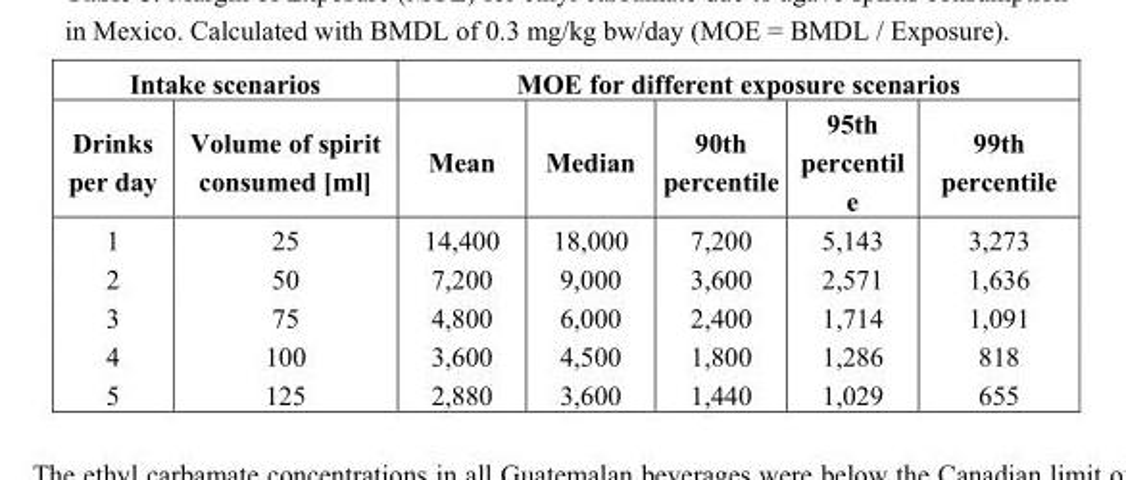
<table><thead><tr><td colspan="2">Intake scenarios</td><td colspan="5">MOE for different exposure scenarios</td></tr><tr><td>Drinks per day</td><td>Volume of spirit consumed [ml]</td><td>Mean</td><td>Median</td><td>90th percentile</td><td>95th percentil e</td><td>99th percentile</td></tr></thead><tbody><tr><td>1</td><td>25</td><td>14,400</td><td>18,000</td><td>7,200</td><td>5,143</td><td>3,273</td></tr><tr><td>2</td><td>50</td><td>7,200</td><td>9,000</td><td>3,600</td><td>2,571</td><td>1,636</td></tr><tr><td>3</td><td>75</td><td>4,800</td><td>6,000</td><td>2,400</td><td>1,714</td><td>1,091</td></tr><tr><td>4</td><td>100</td><td>3,600</td><td>4,500</td><td>1,800</td><td>1,286</td><td>818</td></tr><tr><td>5</td><td>125</td><td>2,880</td><td>3,600</td><td>1,440</td><td>1,029</td><td>655</td></tr></tbody></table>